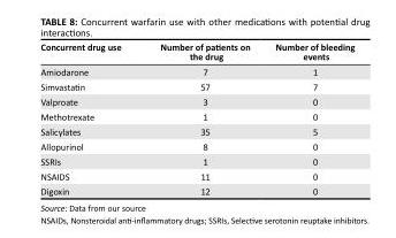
<table><thead><tr><td>Concurrent drug use</td><td>Number of patients on the drug</td><td>Number of bleeding events</td></tr></thead><tbody><tr><td>Amiodarone</td><td>7</td><td>1</td></tr><tr><td>Simvastatin</td><td>57</td><td>7</td></tr><tr><td>Valproate</td><td>3</td><td>0</td></tr><tr><td>Methotrexate</td><td>1</td><td>0</td></tr><tr><td>Salicylates</td><td>35</td><td>5</td></tr><tr><td>Allopurinol</td><td>8</td><td>0</td></tr><tr><td>SSRIs</td><td>1</td><td>0</td></tr><tr><td>NSAIDS</td><td>11</td><td>0</td></tr><tr><td>Digoxin</td><td>12</td><td>0</td></tr></tbody></table>